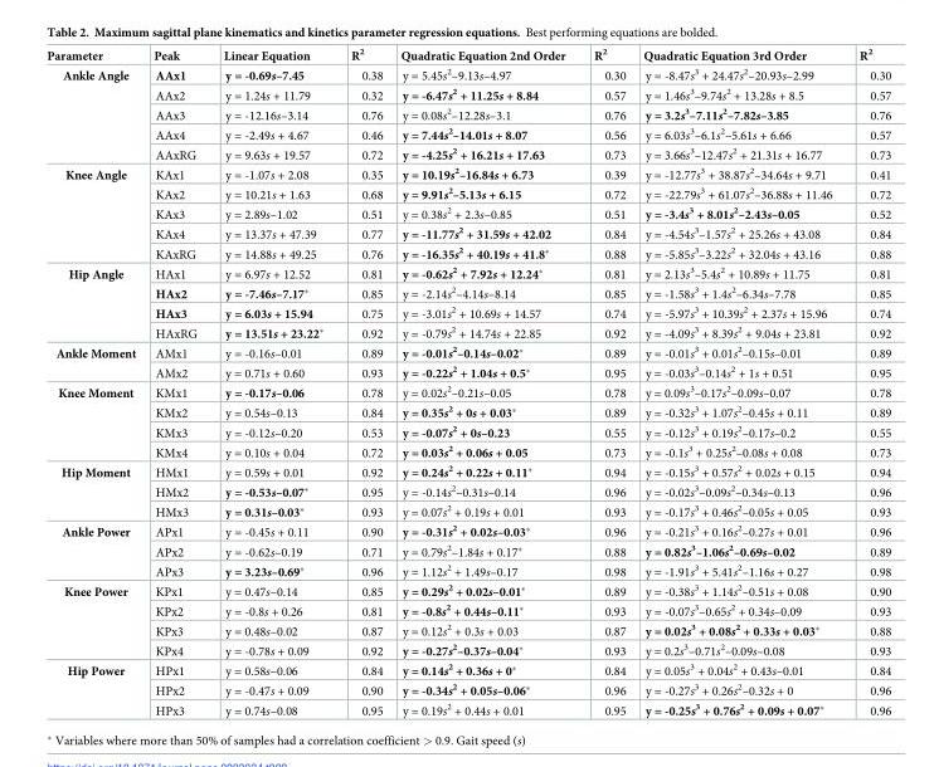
<table><thead><tr><td>Parameter</td><td>Peak</td><td>Linear Equation</td><td>R<sup>2</sup></td><td>Quadratic Equation 2nd Order</td><td>R<sup>2</sup></td><td>Quadratic Equation 3rd Order</td><td>R<sup>2</sup></td></tr></thead><tbody><tr><td rowspan="5">Ankle Angle</td><td>AAx1</td><td>y = -0.69s–7.45</td><td>0.38</td><td>y = 5.45s<sup>2</sup>–9.13s–4.97</td><td>0.30</td><td>y = -8.47s<sup>3</sup> + 24.47s<sup>2</sup>–20.93s–2.99</td><td>0.30</td></tr><tr><td>AAx2</td><td>y = 1.24s + 11.79</td><td>0.32</td><td>y = -6.47s<sup>2</sup> + 11.25s + 8.84</td><td>0.57</td><td>y = 1.46s<sup>3</sup>–9.74s<sup>2</sup> + 13.28s + 8.5</td><td>0.57</td></tr><tr><td>AAx3</td><td>y = -12.16s–3.14</td><td>0.76</td><td>y = 0.08s<sup>2</sup>–12.28s–3.1</td><td>0.76</td><td>y = 3.2s<sup>3</sup>–7.11s<sup>2</sup>–7.82s–3.85</td><td>0.76</td></tr><tr><td>AAx4</td><td>y = -2.49s + 4.67</td><td>0.46</td><td>y = 7.44s<sup>2</sup>–14.01s + 8.07</td><td>0.56</td><td>y = 6.03s<sup>3</sup>–6.1s<sup>2</sup>–5.61s + 6.66</td><td>0.57</td></tr><tr><td>AAxRG</td><td>y = 9.63s + 19.57</td><td>0.72</td><td>y = -4.25s<sup>2</sup> + 16.21s + 17.63</td><td>0.73</td><td>y = 3.66s<sup>3</sup>–12.47s<sup>2</sup> + 21.31s + 16.77</td><td>0.73</td></tr><tr><td rowspan="5">Knee Angle</td><td>KAx1</td><td>y = -1.07s + 2.08</td><td>0.35</td><td>y = 10.19s<sup>2</sup>–16.84s + 6.73</td><td>0.39</td><td>y = -12.77s<sup>3</sup> + 38.87s<sup>2</sup>–34.64s + 9.71</td><td>0.41</td></tr><tr><td>KAx2</td><td>y = 10.21s + 1.63</td><td>0.68</td><td>y = 9.91s<sup>2</sup>–5.13s + 6.15</td><td>0.72</td><td>y = -22.79s<sup>3</sup> + 61.07s<sup>2</sup>–36.88s + 11.46</td><td>0.72</td></tr><tr><td>KAx3</td><td>y = 2.89s–1.02</td><td>0.51</td><td>y = 0.38s<sup>2</sup> + 2.3s–0.85</td><td>0.51</td><td>y = -3.4s<sup>3</sup> + 8.01s<sup>2</sup>–2.43s–0.05</td><td>0.52</td></tr><tr><td>KAx4</td><td>y = 13.37s + 47.39</td><td>0.77</td><td>y = -11.77s<sup>2</sup> + 31.59s + 42.02</td><td>0.84</td><td>y = -4.54s<sup>3</sup>–1.57s<sup>2</sup> + 25.26s + 43.08</td><td>0.84</td></tr><tr><td>KAxRG</td><td>y = 14.88s + 49.25</td><td>0.76</td><td>y = -16.35s<sup>2</sup> + 40.19s + 41.8*</td><td>0.88</td><td>y = -5.85s<sup>3</sup>–3.22s<sup>2</sup> + 32.04s + 43.16</td><td>0.88</td></tr><tr><td rowspan="4">Hip Angle</td><td>HAx1</td><td>y = 6.97s + 12.52</td><td>0.81</td><td>y = -0.62s<sup>2</sup> + 7.92s + 12.24*</td><td>0.81</td><td>y = 2.13s<sup>3</sup>–5.4s<sup>2</sup> + 10.89s + 11.75</td><td>0.81</td></tr><tr><td>HAx2</td><td>y = -7.46s–7.17*</td><td>0.85</td><td>y = -2.14s<sup>2</sup>–4.14s–8.14</td><td>0.85</td><td>y = -1.58s<sup>3</sup> + 1.4s<sup>2</sup>–6.34s–7.78</td><td>0.85</td></tr><tr><td>HAx3</td><td>y = 6.03s + 15.94</td><td>0.75</td><td>y = -3.01s<sup>2</sup> + 10.69s + 14.57</td><td>0.74</td><td>y = -5.97s<sup>3</sup> + 10.39s<sup>2</sup> + 2.37s + 15.96</td><td>0.74</td></tr><tr><td>HAxRG</td><td>y = 13.51s + 23.22*</td><td>0.92</td><td>y = -0.79s<sup>2</sup> + 14.74s + 22.85</td><td>0.92</td><td>y = -4.09s<sup>3</sup> + 8.39s<sup>2</sup> + 9.04s + 23.81</td><td>0.92</td></tr><tr><td rowspan="2">Ankle Moment</td><td>AMx1</td><td>y = -0.16s–0.01</td><td>0.89</td><td>y = -0.01s<sup>2</sup>–0.14s–0.02*</td><td>0.89</td><td>y = -0.01s<sup>3</sup> + 0.01s<sup>2</sup>–0.15s–0.01</td><td>0.89</td></tr><tr><td>AMx2</td><td>y = 0.71s + 0.60</td><td>0.93</td><td>y = -0.22s<sup>2</sup> + 1.04s + 0.5*</td><td>0.95</td><td>y = -0.03s<sup>3</sup>–0.14s<sup>2</sup> + 1s + 0.51</td><td>0.95</td></tr><tr><td rowspan="4">Knee Moment</td><td>KMx1</td><td>y = -0.17s–0.06</td><td>0.78</td><td>y = 0.02s<sup>2</sup>–0.21s–0.05</td><td>0.78</td><td>y = 0.09s<sup>3</sup>–0.17s<sup>2</sup>–0.09s–0.07</td><td>0.78</td></tr><tr><td>KMx2</td><td>y = 0.54s–0.13</td><td>0.84</td><td>y = 0.35s<sup>2</sup> + 0s + 0.03*</td><td>0.89</td><td>y = -0.32s<sup>3</sup> + 1.07s<sup>2</sup>–0.45s + 0.11</td><td>0.89</td></tr><tr><td>KMx3</td><td>y = -0.12s–0.20</td><td>0.53</td><td>y = -0.07s<sup>2</sup> + 0s–0.23</td><td>0.55</td><td>y = -0.12s<sup>3</sup> + 0.19s<sup>2</sup>–0.17s–0.2</td><td>0.55</td></tr><tr><td>KMx4</td><td>y = 0.10s + 0.04</td><td>0.72</td><td>y = 0.03s<sup>2</sup> + 0.06s + 0.05</td><td>0.73</td><td>y = -0.1s<sup>3</sup> + 0.25s<sup>2</sup>–0.08s + 0.08</td><td>0.73</td></tr><tr><td rowspan="3">Hip Moment</td><td>HMx1</td><td>y = 0.59s + 0.01</td><td>0.92</td><td>y = 0.24s<sup>2</sup> + 0.22s + 0.11*</td><td>0.94</td><td>y = -0.15s<sup>3</sup> + 0.57s<sup>2</sup> + 0.02s + 0.15</td><td>0.94</td></tr><tr><td>HMx2</td><td>y = -0.53s–0.07*</td><td>0.95</td><td>y = -0.14s<sup>2</sup>–0.31s–0.14</td><td>0.96</td><td>y = -0.02s<sup>3</sup>–0.09s<sup>2</sup>–0.34s–0.13</td><td>0.96</td></tr><tr><td>HMx3</td><td>y = 0.31s–0.03*</td><td>0.93</td><td>y = 0.07s<sup>2</sup> + 0.19s + 0.01</td><td>0.93</td><td>y = -0.17s<sup>3</sup> + 0.46s<sup>2</sup>–0.05s + 0.05</td><td>0.93</td></tr><tr><td rowspan="3">Ankle Power</td><td>APx1</td><td>y = -0.45s + 0.11</td><td>0.90</td><td>y = -0.31s<sup>2</sup> + 0.02s–0.03*</td><td>0.96</td><td>y = -0.21s<sup>3</sup> + 0.16s<sup>2</sup>–0.27s + 0.01</td><td>0.96</td></tr><tr><td>APx2</td><td>y = -0.62s–0.19</td><td>0.71</td><td>y = 0.79s<sup>2</sup>–1.84s + 0.17*</td><td>0.88</td><td>y = 0.82s<sup>3</sup>–1.06s<sup>2</sup>–0.69s–0.02</td><td>0.89</td></tr><tr><td>APx3</td><td>y = 3.23s–0.69*</td><td>0.96</td><td>y = 1.12s<sup>2</sup> + 1.49s–0.17</td><td>0.98</td><td>y = -1.91s<sup>3</sup> + 5.41s<sup>2</sup>–1.16s + 0.27</td><td>0.98</td></tr><tr><td rowspan="4">Knee Power</td><td>KPx1</td><td>y = 0.47s–0.14</td><td>0.85</td><td>y = 0.29s<sup>2</sup> + 0.02s–0.01*</td><td>0.89</td><td>y = -0.38s<sup>3</sup> + 1.14s<sup>2</sup>–0.51s + 0.08</td><td>0.90</td></tr><tr><td>KPx2</td><td>y = -0.8s + 0.26</td><td>0.81</td><td>y = -0.8s<sup>2</sup> + 0.44s–0.11*</td><td>0.93</td><td>y = -0.07s<sup>3</sup>–0.65s<sup>2</sup> + 0.34s–0.09</td><td>0.93</td></tr><tr><td>KPx3</td><td>y = 0.48s–0.02</td><td>0.87</td><td>y = 0.12s<sup>2</sup> + 0.3s + 0.03</td><td>0.87</td><td>y = 0.02s<sup>3</sup> + 0.08s<sup>2</sup> + 0.33s + 0.03*</td><td>0.88</td></tr><tr><td>KPx4</td><td>y = -0.78s + 0.09</td><td>0.92</td><td>y = -0.27s<sup>2</sup>–0.37s–0.04*</td><td>0.93</td><td>y = 0.2s<sup>3</sup>–0.71s<sup>2</sup>–0.09s–0.08</td><td>0.93</td></tr><tr><td rowspan="3">Hip Power</td><td>HPx1</td><td>y = 0.58s–0.06</td><td>0.84</td><td>y = 0.14s<sup>2</sup> + 0.36s + 0*</td><td>0.84</td><td>y = 0.05s<sup>3</sup> + 0.04s<sup>2</sup> + 0.43s–0.01</td><td>0.84</td></tr><tr><td>HPx2</td><td>y = -0.47s + 0.09</td><td>0.90</td><td>y = -0.34s<sup>2</sup> + 0.05s–0.06*</td><td>0.96</td><td>y = -0.27s<sup>3</sup> + 0.26s<sup>2</sup>–0.32s + 0</td><td>0.96</td></tr><tr><td>HPx3</td><td>y = 0.74s–0.08</td><td>0.95</td><td>y = 0.19s<sup>2</sup> + 0.44s + 0.01</td><td>0.95</td><td>y = -0.25s<sup>3</sup> + 0.76s<sup>2</sup> + 0.09s + 0.07*</td><td>0.96</td></tr></tbody></table>